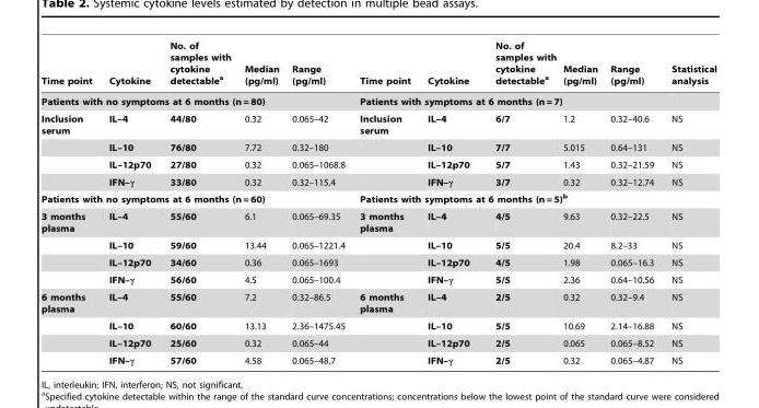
<table><thead><tr><td>Time point</td><td>Cytokine</td><td>No. of samples with cytokine detectable<sup>a</sup></td><td>Median (pg/ml)</td><td>Range (pg/ml)</td><td>Time point</td><td>Cytokine</td><td>No. of samples with cytokine detectable<sup>a</sup></td><td>Median (pg/ml)</td><td>Range (pg/ml)</td><td>Statistical analysis</td></tr></thead><tbody><tr><td colspan="5">Patients with no symptoms at 6 months (n = 80)</td><td colspan="5">Patients with symptoms at 6 months (n = 7)</td><td></td></tr><tr><td rowspan="4">Inclusion serum</td><td>IL–4</td><td>44/80</td><td>0.32</td><td>0.065–42</td><td>Inclusion serum</td><td>IL–4</td><td>6/7</td><td>1.2</td><td>0.32–40.6</td><td>NS</td></tr><tr><td>IL–10</td><td>76/80</td><td>7.72</td><td>0.32–180</td><td></td><td>IL–10</td><td>7/7</td><td>5.015</td><td>0.64–131</td><td>NS</td></tr><tr><td>IL–12p70</td><td>27/80</td><td>0.32</td><td>0.065–1068.8</td><td></td><td>IL–12p70</td><td>5/7</td><td>1.43</td><td>0.32–21.59</td><td>NS</td></tr><tr><td>IFN–γ</td><td>33/80</td><td>0.32</td><td>0.32–115.4</td><td></td><td>IFN–γ</td><td>3/7</td><td>0.32</td><td>0.32–12.74</td><td>NS</td></tr><tr><td colspan="5">Patients with no symptoms at 6 months (n = 60)</td><td colspan="5">Patients with symptoms at 6 months (n = 5)b</td><td></td></tr><tr><td rowspan="4">3 months plasma</td><td>IL–4</td><td>55/60</td><td>6.1</td><td>0.065–69.35</td><td>3 months plasma</td><td>IL–4</td><td>4/5</td><td>9.63</td><td>0.32–22.5</td><td>NS</td></tr><tr><td>IL–10</td><td>59/60</td><td>13.44</td><td>0.065–1221.4</td><td></td><td>IL–10</td><td>5/5</td><td>20.4</td><td>8.2–33</td><td>NS</td></tr><tr><td>IL–12p70</td><td>34/60</td><td>0.36</td><td>0.065–1693</td><td></td><td>IL–12p70</td><td>4/5</td><td>1.98</td><td>0.065–16.3</td><td>NS</td></tr><tr><td>IFN–γ</td><td>56/60</td><td>4.5</td><td>0.065–100.4</td><td></td><td>IFN–γ</td><td>5/5</td><td>2.36</td><td>0.64–10.56</td><td>NS</td></tr><tr><td rowspan="4">6 months plasma</td><td>IL–4</td><td>55/60</td><td>7.2</td><td>0.32–86.5</td><td>6 months plasma</td><td>IL–4</td><td>2/5</td><td>0.32</td><td>0.32–9.4</td><td>NS</td></tr><tr><td>IL–10</td><td>60/60</td><td>13.13</td><td>2.36–1475.45</td><td></td><td>IL–10</td><td>5/5</td><td>10.69</td><td>2.14–16.88</td><td>NS</td></tr><tr><td>IL–12p70</td><td>25/60</td><td>0.32</td><td>0.065–44</td><td></td><td>IL–12p70</td><td>2/5</td><td>0.065</td><td>0.065–8.52</td><td>NS</td></tr><tr><td>IFN–γ</td><td>57/60</td><td>4.58</td><td>0.065–48.7</td><td></td><td>IFN–γ</td><td>2/5</td><td>0.32</td><td>0.065–4.87</td><td>NS</td></tr></tbody></table>